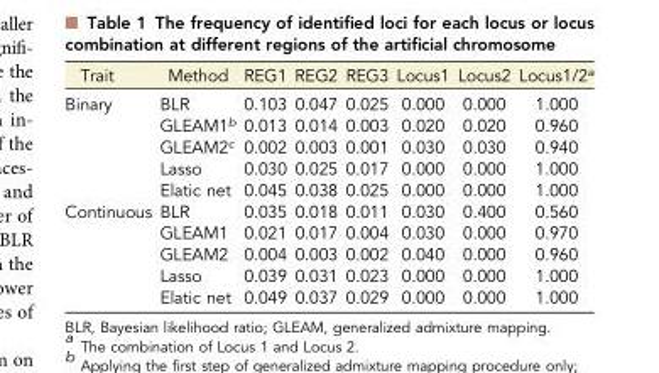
<table><thead><tr><td>Trait</td><td>Method</td><td>REG1</td><td>REG2</td><td>REG3</td><td>Locus1</td><td>Locus2</td><td>Locus1/2<sup>a</sup></td></tr></thead><tbody><tr><td rowspan="5">Binary</td><td>BLR</td><td>0.103</td><td>0.047</td><td>0.025</td><td>0.000</td><td>0.000</td><td>1.000</td></tr><tr><td>GLEAM1<sup>b</sup></td><td>0.013</td><td>0.014</td><td>0.003</td><td>0.020</td><td>0.020</td><td>0.960</td></tr><tr><td>GLEAM2<sup>c</sup></td><td>0.002</td><td>0.003</td><td>0.001</td><td>0.030</td><td>0.030</td><td>0.940</td></tr><tr><td>Lasso</td><td>0.030</td><td>0.025</td><td>0.017</td><td>0.000</td><td>0.000</td><td>1.000</td></tr><tr><td>Elatic net</td><td>0.045</td><td>0.038</td><td>0.025</td><td>0.000</td><td>0.000</td><td>1.000</td></tr><tr><td rowspan="5">Continuous</td><td>BLR</td><td>0.035</td><td>0.018</td><td>0.011</td><td>0.030</td><td>0.400</td><td>0.560</td></tr><tr><td>GLEAM1</td><td>0.021</td><td>0.017</td><td>0.004</td><td>0.030</td><td>0.000</td><td>0.970</td></tr><tr><td>GLEAM2</td><td>0.004</td><td>0.003</td><td>0.002</td><td>0.040</td><td>0.000</td><td>0.960</td></tr><tr><td>Lasso</td><td>0.039</td><td>0.031</td><td>0.023</td><td>0.000</td><td>0.000</td><td>1.000</td></tr><tr><td>Elatic net</td><td>0.049</td><td>0.037</td><td>0.029</td><td>0.000</td><td>0.000</td><td>1.000</td></tr></tbody></table>